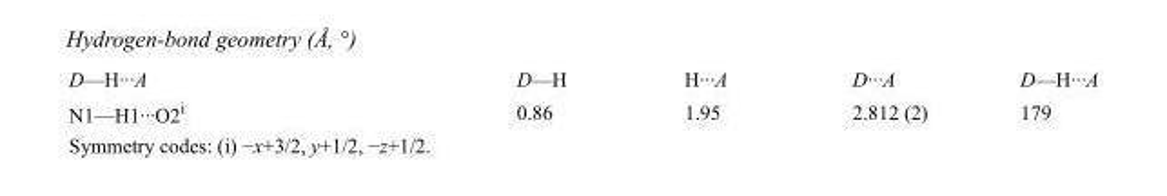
<table><tbody><tr><td>D—H···A</td><td>D—H</td><td>H···A</td><td>D···A</td><td>D—H···A</td></tr><tr><td>N1—H1···O2<sup>i</sup></td><td>0.86</td><td>1.95</td><td>2.812 (2)</td><td>179</td></tr></tbody></table>